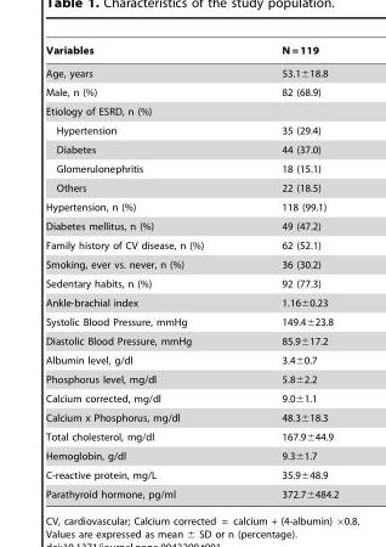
<table><thead><tr><td>Variables</td><td>N = 119</td></tr></thead><tbody><tr><td>Age, years</td><td>53.1±18.8</td></tr><tr><td>Male, n (%)</td><td>82 (68.9)</td></tr><tr><td colspan="2">Etiology of ESRD, n (%)</td></tr><tr><td>Hypertension</td><td>35 (29.4)</td></tr><tr><td>Diabetes</td><td>44 (37.0)</td></tr><tr><td>Glomerulonephritis</td><td>18 (15.1)</td></tr><tr><td>Others</td><td>22 (18.5)</td></tr><tr><td>Hypertension, n (%)</td><td>118 (99.1)</td></tr><tr><td>Diabetes mellitus, n (%)</td><td>49 (47.2)</td></tr><tr><td>Family history of CV disease, n (%)</td><td>62 (52.1)</td></tr><tr><td>Smoking, ever vs. never, n (%)</td><td>36 (30.2)</td></tr><tr><td>Sedentary habits, n (%)</td><td>92 (77.3)</td></tr><tr><td>Ankle-brachial index</td><td>1.16±0.23</td></tr><tr><td>Systolic Blood Pressure, mmHg</td><td>149.4±23.8</td></tr><tr><td>Diastolic Blood Pressure, mmHg</td><td>85.9±17.2</td></tr><tr><td>Albumin level, g/dl</td><td>3.4±0.7</td></tr><tr><td>Phosphorus level, mg/dl</td><td>5.8±2.2</td></tr><tr><td>Calcium corrected, mg/dl</td><td>9.0±1.1</td></tr><tr><td>Calcium x Phosphorus, mg/dl</td><td>48.3±18.3</td></tr><tr><td>Total cholesterol, mg/dl</td><td>167.9±44.9</td></tr><tr><td>Hemoglobin, g/dl</td><td>9.3±1.7</td></tr><tr><td>C-reactive protein, mg/L</td><td>35.9±48.9</td></tr><tr><td>Parathyroid hormone, pg/ml</td><td>372.7±484.2</td></tr></tbody></table>